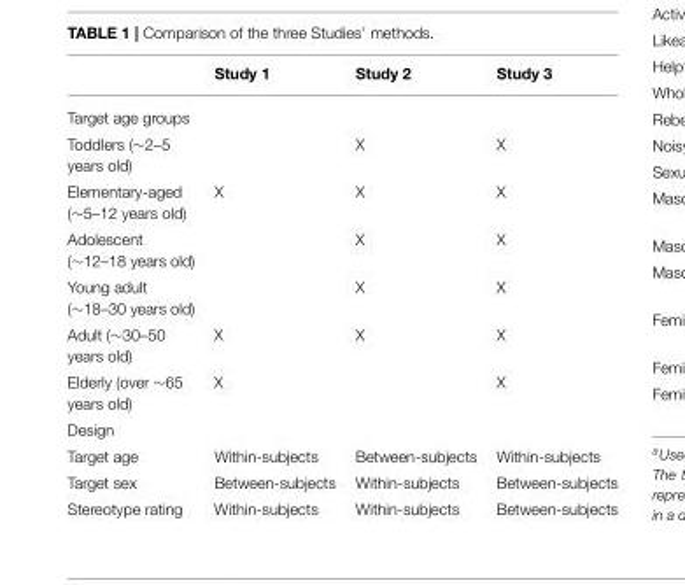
<table><thead><tr><td></td><td>Study 1</td><td>Study 2</td><td>Study 3</td></tr></thead><tbody><tr><td colspan="4">Target age groups</td></tr><tr><td>Toddlers (∼2–5 years old)</td><td></td><td>X</td><td>X</td></tr><tr><td>Elementary-aged (∼5–12 years old)</td><td>X</td><td>X</td><td>X</td></tr><tr><td>Adolescent (∼12–18 years old)</td><td></td><td>X</td><td>X</td></tr><tr><td>Young adult (∼18–30 years old)</td><td></td><td>X</td><td>X</td></tr><tr><td>Adult (∼30–50 years old)</td><td>X</td><td>X</td><td>X</td></tr><tr><td>Elderly (over ∼65 years old)</td><td>X</td><td></td><td>X</td></tr><tr><td colspan="4">Design</td></tr><tr><td>Target age</td><td>Within-subjects</td><td>Between-subjects</td><td>Within-subjects</td></tr><tr><td>Target sex</td><td>Between-subjects</td><td>Within-subjects</td><td>Between-subjects</td></tr><tr><td>Stereotype rating</td><td>Within-subjects</td><td>Within-subjects</td><td>Between-subjects</td></tr></tbody></table>